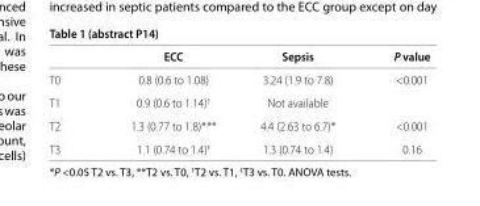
<table><thead><tr><td></td><td>ECC</td><td>Sepsis</td><td>P value</td></tr></thead><tbody><tr><td>T0</td><td>0.8 (0.6 to 1.08)</td><td>3.24 (1.9 to 7.8)</td><td>&lt;0.001</td></tr><tr><td>T1</td><td>0.9 (0.6 to 1.14)<sup>†</sup></td><td>Not available</td><td></td></tr><tr><td>T2</td><td>1.3 (0.77 to 1.8)*,**</td><td>4.4 (2.63 to 6.7)*</td><td>&lt;0.001</td></tr><tr><td>T3</td><td>1.1 (0.74 to 1.4)<sup>‡</sup></td><td>1.3 (0.74 to 1.4)</td><td>0.16</td></tr></tbody></table>